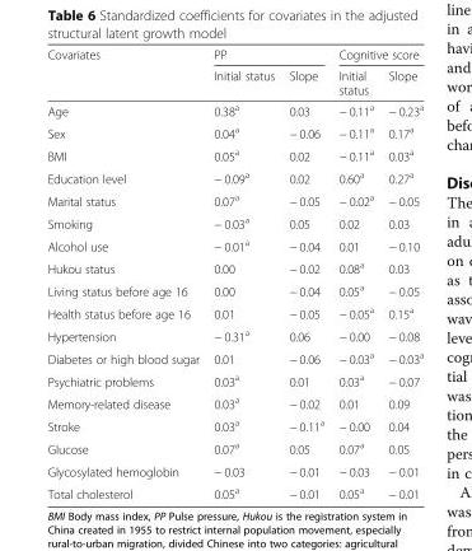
<table><thead><tr><td rowspan="2">Covariates</td><td colspan="2">PP</td><td colspan="2">Cognitive score</td></tr><tr><td>Initial status</td><td>Slope</td><td>Initial status</td><td>Slope</td></tr></thead><tbody><tr><td>Age</td><td>0.38<sup>a</sup></td><td>0.03</td><td>− 0.11<sup>a</sup></td><td>− 0.23<sup>a</sup></td></tr><tr><td>Sex</td><td>0.04<sup>a</sup></td><td>− 0.06</td><td>− 0.11<sup>a</sup></td><td>0.17<sup>a</sup></td></tr><tr><td>BMI</td><td>0.05<sup>a</sup></td><td>0.02</td><td>− 0.11<sup>a</sup></td><td>0.03<sup>a</sup></td></tr><tr><td>Education level</td><td>− 0.09<sup>a</sup></td><td>0.02</td><td>0.60<sup>a</sup></td><td>0.27<sup>a</sup></td></tr><tr><td>Marital status</td><td>0.07<sup>a</sup></td><td>− 0.05</td><td>− 0.02<sup>a</sup></td><td>− 0.05</td></tr><tr><td>Smoking</td><td>− 0.03<sup>a</sup></td><td>0.05</td><td>0.02</td><td>0.03</td></tr><tr><td>Alcohol use</td><td>− 0.01<sup>a</sup></td><td>− 0.04</td><td>0.01</td><td>− 0.10</td></tr><tr><td>Hukou status</td><td>0.00</td><td>− 0.02</td><td>0.08<sup>a</sup></td><td>0.03</td></tr><tr><td>Living status before age 16</td><td>0.00</td><td>− 0.04</td><td>0.05<sup>a</sup></td><td>− 0.05</td></tr><tr><td>Health status before age 16</td><td>0.01</td><td>− 0.05</td><td>− 0.05<sup>a</sup></td><td>0.15<sup>a</sup></td></tr><tr><td>Hypertension</td><td>− 0.31<sup>a</sup></td><td>0.06</td><td>− 0.00</td><td>− 0.08</td></tr><tr><td>Diabetes or high blood sugar</td><td>0.01</td><td>− 0.06</td><td>− 0.03<sup>a</sup></td><td>− 0.03<sup>a</sup></td></tr><tr><td>Psychiatric problems</td><td>0.03<sup>a</sup></td><td>0.01</td><td>0.03<sup>a</sup></td><td>− 0.07</td></tr><tr><td>Memory-related disease</td><td>0.03<sup>a</sup></td><td>− 0.02</td><td>0.01</td><td>0.09</td></tr><tr><td>Stroke</td><td>0.03<sup>a</sup></td><td>− 0.11<sup>a</sup></td><td>− 0.00</td><td>0.04</td></tr><tr><td>Glucose</td><td>0.07<sup>a</sup></td><td>0.05</td><td>0.07<sup>a</sup></td><td>0.05</td></tr><tr><td>Glycosylated hemoglobin</td><td>− 0.03</td><td>− 0.01</td><td>− 0.03</td><td>− 0.01</td></tr><tr><td>Total cholesterol</td><td>0.05<sup>a</sup></td><td>− 0.01</td><td>0.05<sup>a</sup></td><td>− 0.01</td></tr></tbody></table>